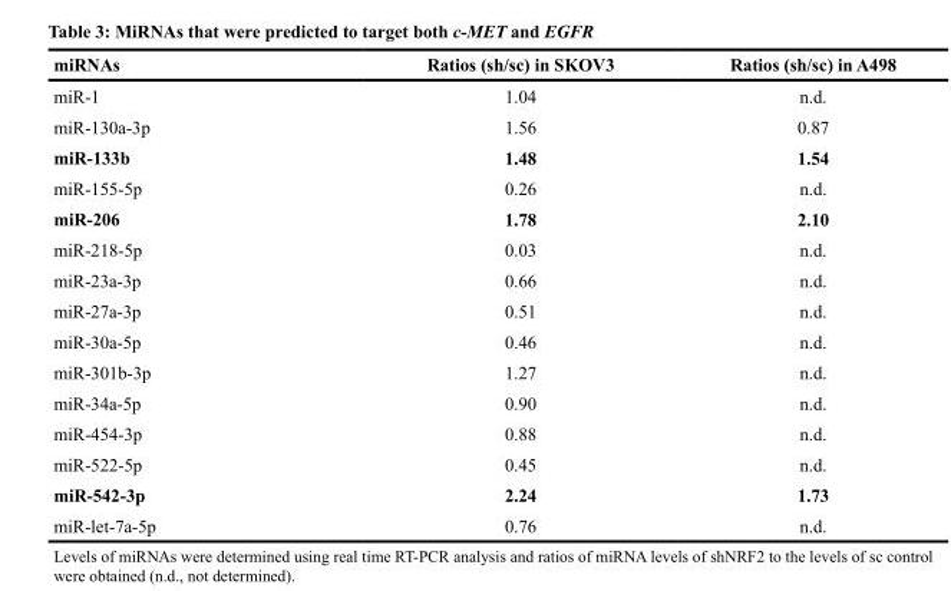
<table><thead><tr><td>miRNAs</td><td>Ratios (sh/sc) in SKOV3</td><td>Ratios (sh/sc) in A498</td></tr></thead><tbody><tr><td>miR-1</td><td>1.04</td><td>n.d.</td></tr><tr><td>miR-130a-3p</td><td>1.56</td><td>0.87</td></tr><tr><td>miR-133b</td><td>1.48</td><td>1.54</td></tr><tr><td>miR-155-5p</td><td>0.26</td><td>n.d.</td></tr><tr><td>miR-206</td><td>1.78</td><td>2.10</td></tr><tr><td>miR-218-5p</td><td>0.03</td><td>n.d.</td></tr><tr><td>miR-23a-3p</td><td>0.66</td><td>n.d.</td></tr><tr><td>miR-27a-3p</td><td>0.51</td><td>n.d.</td></tr><tr><td>miR-30a-5p</td><td>0.46</td><td>n.d.</td></tr><tr><td>miR-301b-3p</td><td>1.27</td><td>n.d.</td></tr><tr><td>miR-34a-5p</td><td>0.90</td><td>n.d.</td></tr><tr><td>miR-454-3p</td><td>0.88</td><td>n.d.</td></tr><tr><td>miR-522-5p</td><td>0.45</td><td>n.d.</td></tr><tr><td>miR-542-3p</td><td>2.24</td><td>1.73</td></tr><tr><td>miR-let-7a-5p</td><td>0.76</td><td>n.d.</td></tr></tbody></table>